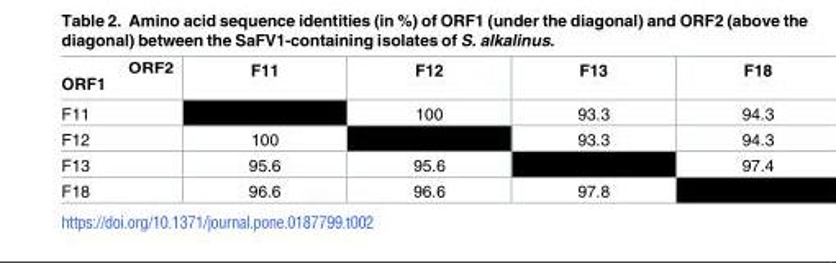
<table><thead><tr><td>ORF1 ORF2</td><td>F11</td><td>F12</td><td>F13</td><td>F18</td></tr></thead><tbody><tr><td>F11</td><td></td><td>100</td><td>93.3</td><td>94.3</td></tr><tr><td>F12</td><td>100</td><td></td><td>93.3</td><td>94.3</td></tr><tr><td>F13</td><td>95.6</td><td>95.6</td><td></td><td>97.4</td></tr><tr><td>F18</td><td>96.6</td><td>96.6</td><td>97.8</td><td></td></tr></tbody></table>